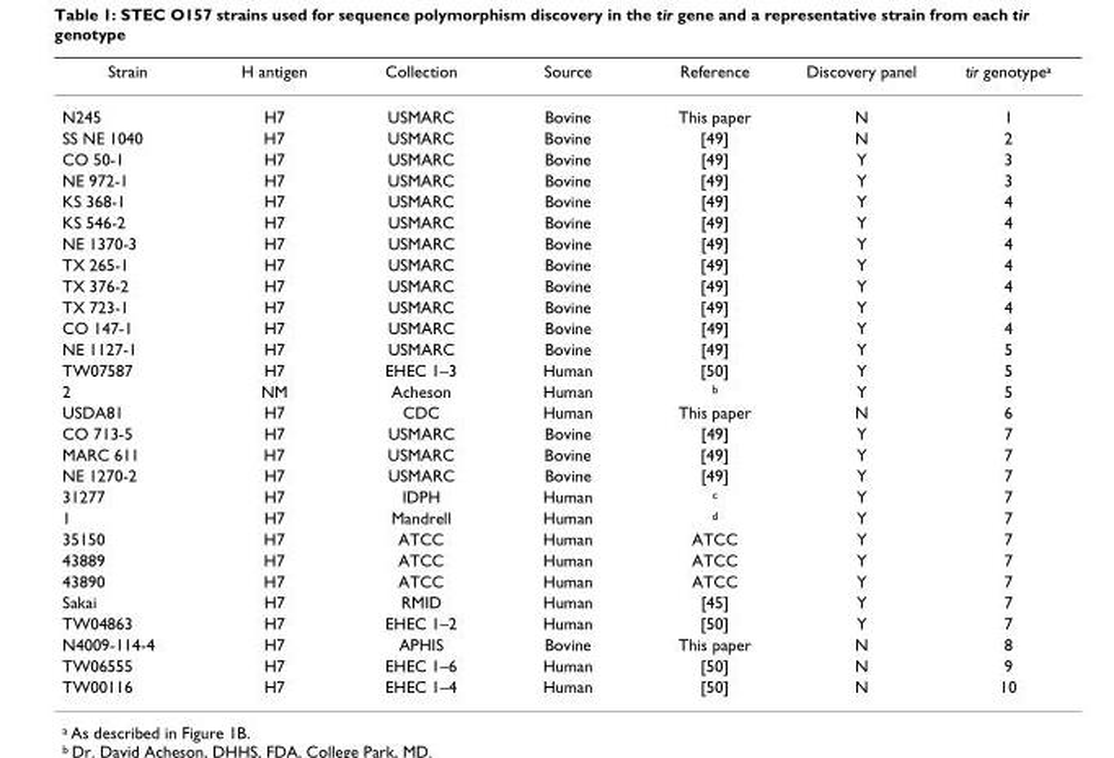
<table><thead><tr><td>Strain</td><td>H antigen</td><td>Collection</td><td>Source</td><td>Reference</td><td>Discovery panel</td><td>tir genotype<sup>a</sup></td></tr></thead><tbody><tr><td>N245</td><td>H7</td><td>USMARC</td><td>Bovine</td><td>This paper</td><td>N</td><td>1</td></tr><tr><td>SS NE 1040</td><td>H7</td><td>USMARC</td><td>Bovine</td><td>[49]</td><td>N</td><td>2</td></tr><tr><td>CO 50-1</td><td>H7</td><td>USMARC</td><td>Bovine</td><td>[49]</td><td>Y</td><td>3</td></tr><tr><td>NE 972-1</td><td>H7</td><td>USMARC</td><td>Bovine</td><td>[49]</td><td>Y</td><td>3</td></tr><tr><td>KS 368-1</td><td>H7</td><td>USMARC</td><td>Bovine</td><td>[49]</td><td>Y</td><td>4</td></tr><tr><td>KS 546-2</td><td>H7</td><td>USMARC</td><td>Bovine</td><td>[49]</td><td>Y</td><td>4</td></tr><tr><td>NE 1370-3</td><td>H7</td><td>USMARC</td><td>Bovine</td><td>[49]</td><td>Y</td><td>4</td></tr><tr><td>TX 265-1</td><td>H7</td><td>USMARC</td><td>Bovine</td><td>[49]</td><td>Y</td><td>4</td></tr><tr><td>TX 376-2</td><td>H7</td><td>USMARC</td><td>Bovine</td><td>[49]</td><td>Y</td><td>4</td></tr><tr><td>TX 723-1</td><td>H7</td><td>USMARC</td><td>Bovine</td><td>[49]</td><td>Y</td><td>4</td></tr><tr><td>CO 147-1</td><td>H7</td><td>USMARC</td><td>Bovine</td><td>[49]</td><td>Y</td><td>4</td></tr><tr><td>NE 1127-1</td><td>H7</td><td>USMARC</td><td>Bovine</td><td>[49]</td><td>Y</td><td>5</td></tr><tr><td>TW07587</td><td>H7</td><td>EHEC 1–3</td><td>Human</td><td>[50]</td><td>Y</td><td>5</td></tr><tr><td>2</td><td>NM</td><td>Acheson</td><td>Human</td><td><sup>b</sup></td><td>Y</td><td>5</td></tr><tr><td>USDA81</td><td>H7</td><td>CDC</td><td>Human</td><td>This paper</td><td>N</td><td>6</td></tr><tr><td>CO 713-5</td><td>H7</td><td>USMARC</td><td>Bovine</td><td>[49]</td><td>Y</td><td>7</td></tr><tr><td>MARC 611</td><td>H7</td><td>USMARC</td><td>Bovine</td><td>[49]</td><td>Y</td><td>7</td></tr><tr><td>NE 1270-2</td><td>H7</td><td>USMARC</td><td>Bovine</td><td>[49]</td><td>Y</td><td>7</td></tr><tr><td>31277</td><td>H7</td><td>IDPH</td><td>Human</td><td><sup>c</sup></td><td>Y</td><td>7</td></tr><tr><td>1</td><td>H7</td><td>Mandrell</td><td>Human</td><td><sup>d</sup></td><td>Y</td><td>7</td></tr><tr><td>35150</td><td>H7</td><td>ATCC</td><td>Human</td><td>ATCC</td><td>Y</td><td>7</td></tr><tr><td>43889</td><td>H7</td><td>ATCC</td><td>Human</td><td>ATCC</td><td>Y</td><td>7</td></tr><tr><td>43890</td><td>H7</td><td>ATCC</td><td>Human</td><td>ATCC</td><td>Y</td><td>7</td></tr><tr><td>Sakai</td><td>H7</td><td>RMID</td><td>Human</td><td>[45]</td><td>Y</td><td>7</td></tr><tr><td>TW04863</td><td>H7</td><td>EHEC 1–2</td><td>Human</td><td>[50]</td><td>Y</td><td>7</td></tr><tr><td>N4009-114-4</td><td>H7</td><td>APHIS</td><td>Bovine</td><td>This paper</td><td>N</td><td>8</td></tr><tr><td>TW06555</td><td>H7</td><td>EHEC 1–6</td><td>Human</td><td>[50]</td><td>N</td><td>9</td></tr><tr><td>TW00116</td><td>H7</td><td>EHEC 1–4</td><td>Human</td><td>[50]</td><td>N</td><td>10</td></tr></tbody></table>